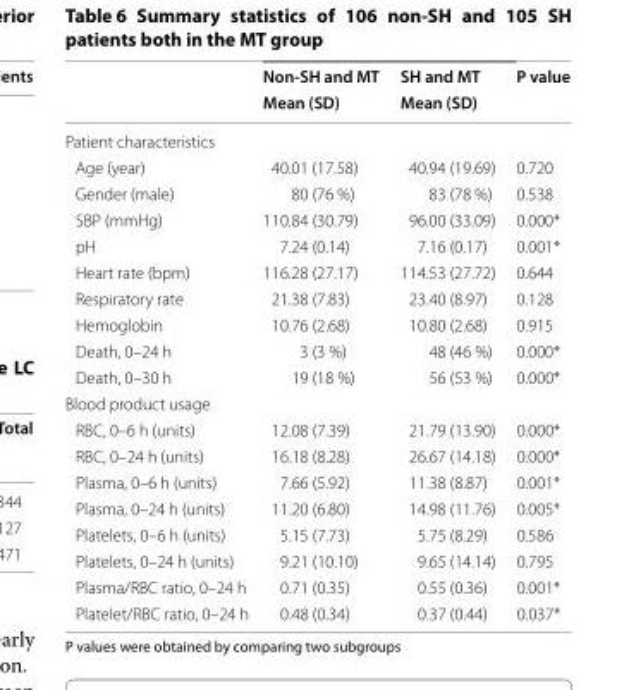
<table><thead><tr><td rowspan="2"></td><td rowspan="2">Non-SH and MT Mean (SD)</td><td rowspan="2">SH and MT Mean (SD)</td><td rowspan="2">P value</td></tr><tr></tr></thead><tbody><tr><td colspan="4">Patient characteristics</td></tr><tr><td>Age (year)</td><td>40.01 (17.58)</td><td>40.94 (19.69)</td><td>0.720</td></tr><tr><td>Gender (male)</td><td>80 (76 %)</td><td>83 (78 %)</td><td>0.538</td></tr><tr><td>SBP (mmHg)</td><td>110.84 (30.79)</td><td>96.00 (33.09)</td><td>0.000*</td></tr><tr><td>pH</td><td>7.24 (0.14)</td><td>7.16 (0.17)</td><td>0.001*</td></tr><tr><td>Heart rate (bpm)</td><td>116.28 (27.17)</td><td>114.53 (27.72)</td><td>0.644</td></tr><tr><td>Respiratory rate</td><td>21.38 (7.83)</td><td>23.40 (8.97)</td><td>0.128</td></tr><tr><td>Hemoglobin</td><td>10.76 (2.68)</td><td>10.80 (2.68)</td><td>0.915</td></tr><tr><td>Death, 0–24 h</td><td>3 (3 %)</td><td>48 (46 %)</td><td>0.000*</td></tr><tr><td>Death, 0–30 h</td><td>19 (18 %)</td><td>56 (53 %)</td><td>0.000*</td></tr><tr><td colspan="4">Blood product usage</td></tr><tr><td>RBC, 0–6 h (units)</td><td>12.08 (7.39)</td><td>21.79 (13.90)</td><td>0.000*</td></tr><tr><td>RBC, 0–24 h (units)</td><td>16.18 (8.28)</td><td>26.67 (14.18)</td><td>0.000*</td></tr><tr><td>Plasma, 0–6 h (units)</td><td>7.66 (5.92)</td><td>11.38 (8.87)</td><td>0.001*</td></tr><tr><td>Plasma, 0–24 h (units)</td><td>11.20 (6.80)</td><td>14.98 (11.76)</td><td>0.005*</td></tr><tr><td>Platelets, 0–6 h (units)</td><td>5.15 (7.73)</td><td>5.75 (8.29)</td><td>0.586</td></tr><tr><td>Platelets, 0–24 h (units)</td><td>9.21 (10.10)</td><td>9.65 (14.14)</td><td>0.795</td></tr><tr><td>Plasma/RBC ratio, 0–24 h</td><td>0.71 (0.35)</td><td>0.55 (0.36)</td><td>0.001*</td></tr><tr><td>Platelet/RBC ratio, 0–24 h</td><td>0.48 (0.34)</td><td>0.37 (0.44)</td><td>0.037*</td></tr></tbody></table>